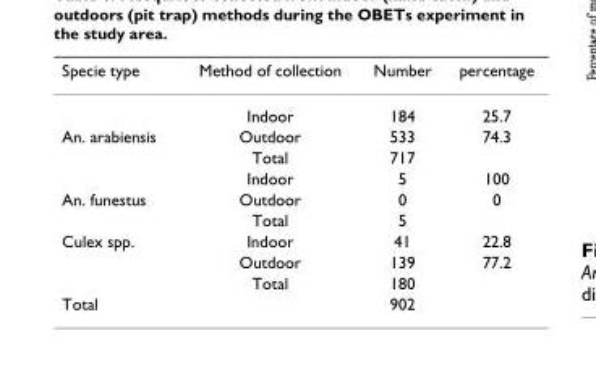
<table><thead><tr><td>Specie type</td><td>Method of collection</td><td>Number</td><td>percentage</td></tr></thead><tbody><tr><td></td><td>Indoor</td><td>184</td><td>25.7</td></tr><tr><td rowspan="3">An. arabiensis</td><td>Outdoor</td><td>533</td><td>74.3</td></tr><tr><td>Total</td><td>717</td><td></td></tr><tr><td>Indoor</td><td>5</td><td>100</td></tr><tr><td rowspan="2">An. funestus</td><td>Outdoor</td><td>0</td><td>0</td></tr><tr><td>Total</td><td>5</td><td></td></tr><tr><td rowspan="3">Culex spp.</td><td>Indoor</td><td>41</td><td>22.8</td></tr><tr><td>Outdoor</td><td>139</td><td>77.2</td></tr><tr><td>Total</td><td>180</td><td></td></tr><tr><td>Total</td><td></td><td>902</td><td></td></tr></tbody></table>